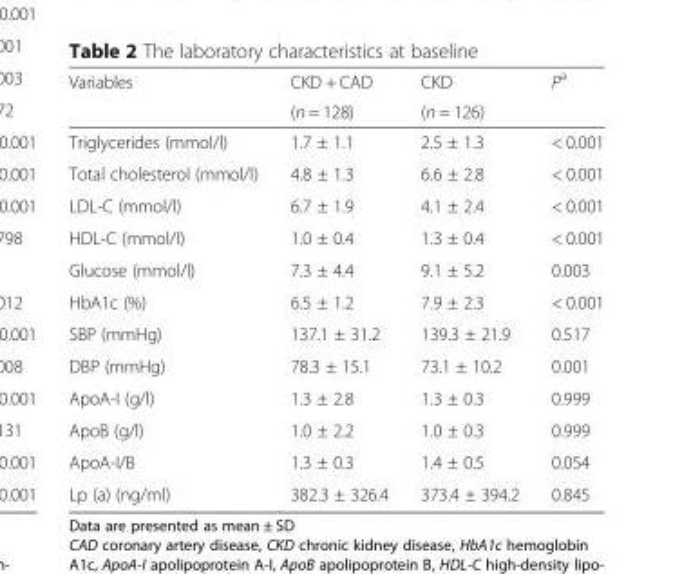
<table><thead><tr><td rowspan="2">Variables</td><td rowspan="2">CKD + CAD (n = 128)</td><td rowspan="2">CKD (n = 126)</td><td rowspan="2">P<sup>a</sup></td></tr><tr></tr></thead><tbody><tr><td>Triglycerides (mmol/l)</td><td>1.7 ± 1.1</td><td>2.5 ± 1.3</td><td>&lt; 0.001</td></tr><tr><td>Total cholesterol (mmol/l)</td><td>4.8 ± 1.3</td><td>6.6 ± 2.8</td><td>&lt; 0.001</td></tr><tr><td>LDL-C (mmol/l)</td><td>6.7 ± 1.9</td><td>4.1 ± 2.4</td><td>&lt; 0.001</td></tr><tr><td>HDL-C (mmol/l)</td><td>1.0 ± 0.4</td><td>1.3 ± 0.4</td><td>&lt; 0.001</td></tr><tr><td>Glucose (mmol/l)</td><td>7.3 ± 4.4</td><td>9.1 ± 5.2</td><td>0.003</td></tr><tr><td>HbA1c (%)</td><td>6.5 ± 1.2</td><td>7.9 ± 2.3</td><td>&lt; 0.001</td></tr><tr><td>SBP (mmHg)</td><td>137.1 ± 31.2</td><td>139.3 ± 21.9</td><td>0.517</td></tr><tr><td>DBP (mmHg)</td><td>78.3 ± 15.1</td><td>73.1 ± 10.2</td><td>0.001</td></tr><tr><td>ApoA-I (g/l)</td><td>1.3 ± 2.8</td><td>1.3 ± 0.3</td><td>0.999</td></tr><tr><td>ApoB (g/l)</td><td>1.0 ± 2.2</td><td>1.0 ± 0.3</td><td>0.999</td></tr><tr><td>ApoA-I/B</td><td>1.3 ± 0.3</td><td>1.4 ± 0.5</td><td>0.054</td></tr><tr><td>Lp (a) (ng/ml)</td><td>382.3 ± 326.4</td><td>373.4 ± 394.2</td><td>0.845</td></tr></tbody></table>